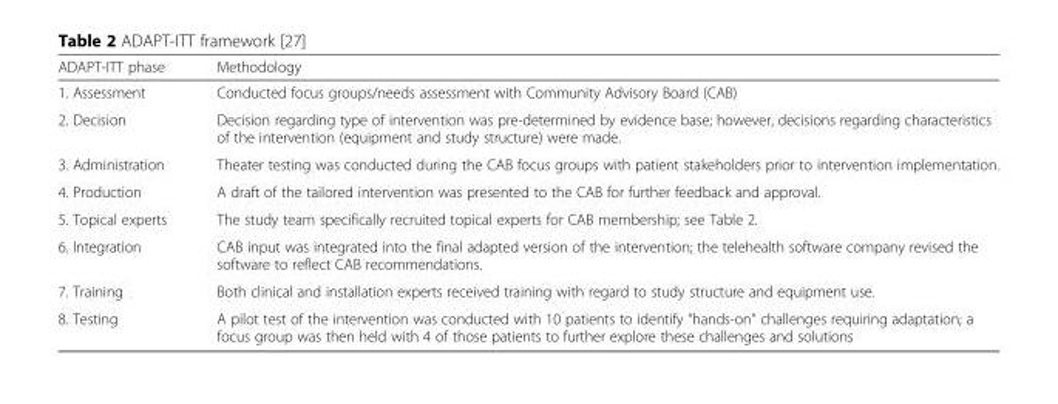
<table><thead><tr><td>ADAPT-ITT phase</td><td>Methodology</td></tr></thead><tbody><tr><td>1. Assessment</td><td>Conducted focus groups/needs assessment with Community Advisory Board (CAB)</td></tr><tr><td>2. Decision</td><td>Decision regarding type of intervention was pre-determined by evidence base; however, decisions regarding characteristics of the intervention (equipment and study structure) were made.</td></tr><tr><td>3. Administration</td><td>Theater testing was conducted during the CAB focus groups with patient stakeholders prior to intervention implementation.</td></tr><tr><td>4. Production</td><td>A draft of the tailored intervention was presented to the CAB for further feedback and approval.</td></tr><tr><td>5. Topical experts</td><td>The study team specifically recruited topical experts for CAB membership; see Table 2.</td></tr><tr><td>6. Integration</td><td>CAB input was integrated into the final adapted version of the intervention; the telehealth software company revised the software to reflect CAB recommendations.</td></tr><tr><td>7. Training</td><td>Both clinical and installation experts received training with regard to study structure and equipment use.</td></tr><tr><td>8. Testing</td><td>A pilot test of the intervention was conducted with 10 patients to identify “hands-on” challenges requiring adaptation; a focus group was then held with 4 of those patients to further explore these challenges and solutions</td></tr></tbody></table>